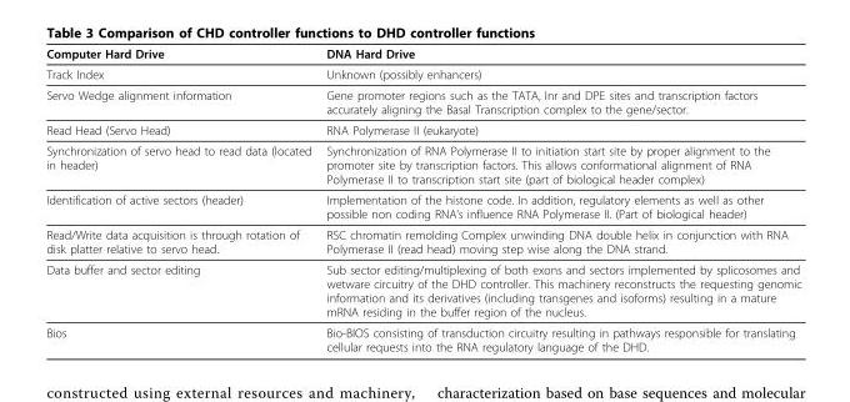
<table><thead><tr><td>Computer Hard Drive</td><td>DNA Hard Drive</td></tr></thead><tbody><tr><td>Track Index</td><td>Unknown (possibly enhancers)</td></tr><tr><td>Servo Wedge alignment information</td><td>Gene promoter regions such as the TATA, Inr and DPE sites and transcription factors accurately aligning the Basal Transcription complex to the gene/sector.</td></tr><tr><td>Read Head (Servo Head)</td><td>RNA Polymerase II (eukaryote)</td></tr><tr><td>Synchronization of servo head to read data (located in header)</td><td>Synchronization of RNA Polymerase II to initiation start site by proper alignment to the promoter site by transcription factors. This allows conformational alignment of RNA Polymerase II to transcription start site (part of biological header complex)</td></tr><tr><td>Identification of active sectors (header)</td><td>Implementation of the histone code. In addition, regulatory elements as well as other possible non coding RNA’s influence RNA Polymerase II. (Part of biological header)</td></tr><tr><td>Read/Write data acquisition is through rotation of disk platter relative to servo head.</td><td>RSC chromatin remolding Complex unwinding DNA double helix in conjunction with RNA Polymerase II (read head) moving step wise along the DNA strand.</td></tr><tr><td>Data buffer and sector editing</td><td>Sub sector editing/multiplexing of both exons and sectors implemented by splicosomes and wetware circuitry of the DHD controller. This machinery reconstructs the requesting genomic information and its derivatives (including transgenes and isoforms) resulting in a mature mRNA residing in the buffer region of the nucleus.</td></tr><tr><td>Bios</td><td>Bio-BIOS consisting of transduction circuitry resulting in pathways responsible for translating cellular requests into the RNA regulatory language of the DHD.</td></tr></tbody></table>